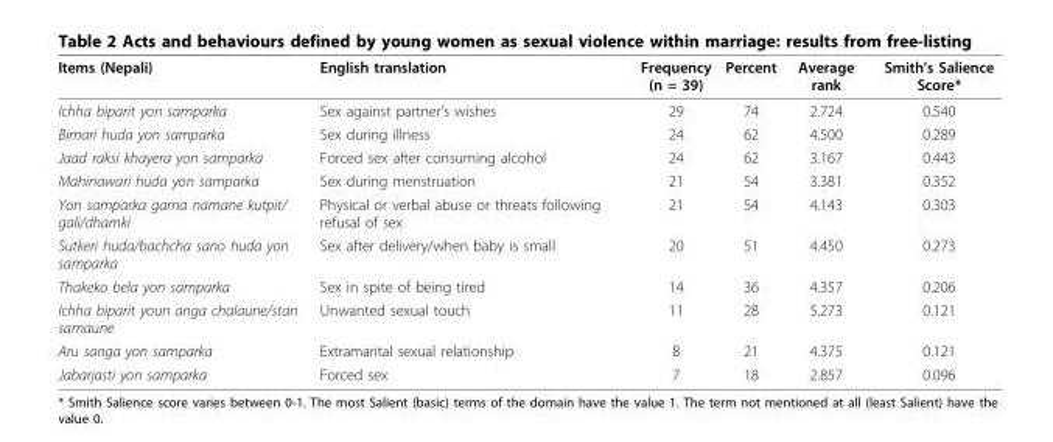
<table><thead><tr><td>Items (Nepali)</td><td>English translation</td><td>Frequency (n = 39)</td><td>Percent</td><td>Average rank</td><td>Smith’s Salience Score*</td></tr></thead><tbody><tr><td>Ichha biparit yon samparka</td><td>Sex against partner’s wishes</td><td>29</td><td>74</td><td>2.724</td><td>0.540</td></tr><tr><td>Bimari huda yon samparka</td><td>Sex during illness</td><td>24</td><td>62</td><td>4.500</td><td>0.289</td></tr><tr><td>Jaad raksi khayera yon samparka</td><td>Forced sex after consuming alcohol</td><td>24</td><td>62</td><td>3.167</td><td>0.443</td></tr><tr><td>Mahinawari huda yon samparka</td><td>Sex during menstruation</td><td>21</td><td>54</td><td>3.381</td><td>0.352</td></tr><tr><td>Yon samparka garna namane kutpit/ gali/dhamki</td><td>Physical or verbal abuse or threats following refusal of sex</td><td>21</td><td>54</td><td>4.143</td><td>0.303</td></tr><tr><td>Sutkeri huda/bachcha sano huda yon samparka</td><td>Sex after delivery/when baby is small</td><td>20</td><td>51</td><td>4.450</td><td>0.273</td></tr><tr><td>Thakeko bela yon samparka</td><td>Sex in spite of being tired</td><td>14</td><td>36</td><td>4.357</td><td>0.206</td></tr><tr><td>Ichha biparit youn anga chalaune/stan samaune</td><td>Unwanted sexual touch</td><td>11</td><td>28</td><td>5.273</td><td>0.121</td></tr><tr><td>Aru sanga yon samparka</td><td>Extramarital sexual relationship</td><td>8</td><td>21</td><td>4.375</td><td>0.121</td></tr><tr><td>Jabarjasti yon samparka</td><td>Forced sex</td><td>7</td><td>18</td><td>2.857</td><td>0.096</td></tr></tbody></table>